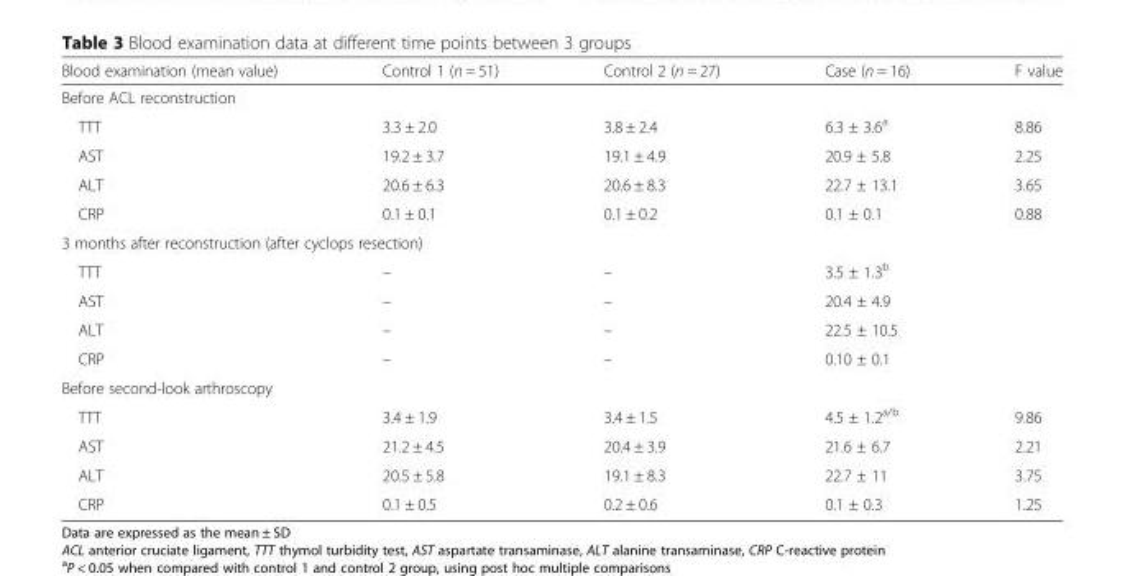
<table><thead><tr><td>Blood examination (mean value)</td><td>Control 1 (n = 51)</td><td>Control 2 (n = 27)</td><td>Case (n = 16)</td><td>F value</td></tr></thead><tbody><tr><td colspan="5">Before ACL reconstruction</td></tr><tr><td>TTT</td><td>3.3 ± 2.0</td><td>3.8 ± 2.4</td><td>6.3 ± 3.6<sup>a</sup></td><td>8.86</td></tr><tr><td>AST</td><td>19.2 ± 3.7</td><td>19.1 ± 4.9</td><td>20.9 ± 5.8</td><td>2.25</td></tr><tr><td>ALT</td><td>20.6 ± 6.3</td><td>20.6 ± 8.3</td><td>22.7 ± 13.1</td><td>3.65</td></tr><tr><td>CRP</td><td>0.1 ± 0.1</td><td>0.1 ± 0.2</td><td>0.1 ± 0.1</td><td>0.88</td></tr><tr><td colspan="5">3 months after reconstruction (after cyclops resection)</td></tr><tr><td>TTT</td><td>–</td><td>–</td><td>3.5 ± 1.3<sup>b</sup></td><td></td></tr><tr><td>AST</td><td>–</td><td>–</td><td>20.4 ± 4.9</td><td></td></tr><tr><td>ALT</td><td>–</td><td>–</td><td>22.5 ± 10.5</td><td></td></tr><tr><td>CRP</td><td>–</td><td>–</td><td>0.10 ± 0.1</td><td></td></tr><tr><td colspan="5">Before second-look arthroscopy</td></tr><tr><td>TTT</td><td>3.4 ± 1.9</td><td>3.4 ± 1.5</td><td>4.5 ± 1.2<sup>a/b</sup></td><td>9.86</td></tr><tr><td>AST</td><td>21.2 ± 4.5</td><td>20.4 ± 3.9</td><td>21.6 ± 6.7</td><td>2.21</td></tr><tr><td>ALT</td><td>20.5 ± 5.8</td><td>19.1 ± 8.3</td><td>22.7 ± 11</td><td>3.75</td></tr><tr><td>CRP</td><td>0.1 ± 0.5</td><td>0.2 ± 0.6</td><td>0.1 ± 0.3</td><td>1.25</td></tr></tbody></table>